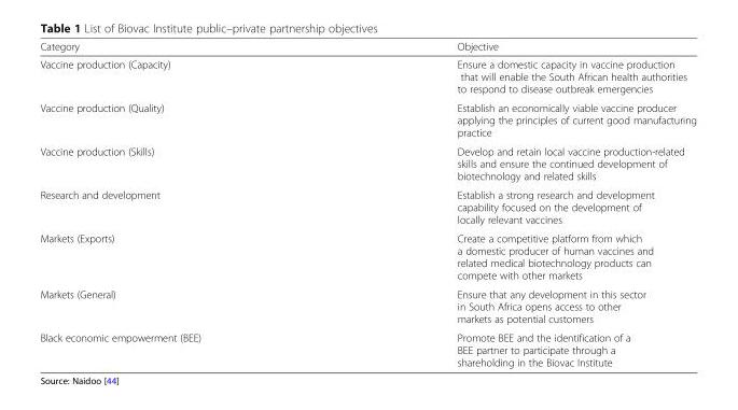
<table><thead><tr><td>Category</td><td>Objective</td></tr></thead><tbody><tr><td>Vaccine production (Capacity)</td><td>Ensure a domestic capacity in vaccine production that will enable the South African health authorities to respond to disease outbreak emergencies</td></tr><tr><td>Vaccine production (Quality)</td><td>Establish an economically viable vaccine producer applying the principles of current good manufacturing practice</td></tr><tr><td>Vaccine production (Skills)</td><td>Develop and retain local vaccine production-related skills and ensure the continued development of biotechnology and related skills</td></tr><tr><td>Research and development</td><td>Establish a strong research and development capability focused on the development of locally relevant vaccines</td></tr><tr><td>Markets (Exports)</td><td>Create a competitive platform from which a domestic producer of human vaccines and related medical biotechnology products can compete with other markets</td></tr><tr><td>Markets (General)</td><td>Ensure that any development in this sector in South Africa opens access to other markets as potential customers</td></tr><tr><td>Black economic empowerment (BEE)</td><td>Promote BEE and the identification of a BEE partner to participate through a shareholding in the Biovac Institute</td></tr></tbody></table>